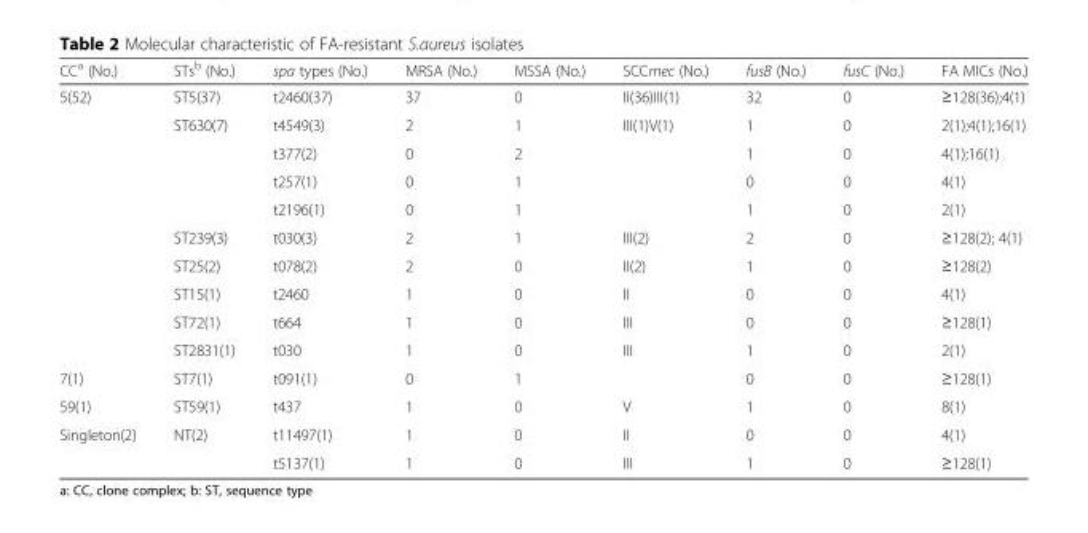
<table><thead><tr><td>CC<sup>a</sup> (No.)</td><td>STs<sup>b</sup> (No.)</td><td>spa types (No.)</td><td>MRSA (No.)</td><td>MSSA (No.)</td><td>SCCmec (No.)</td><td>fusB (No.)</td><td>fusC (No.)</td><td>FA MICs (No.)</td></tr></thead><tbody><tr><td rowspan="10">5(52)</td><td>ST5(37)</td><td>t2460(37)</td><td>37</td><td>0</td><td>II(36)III(1)</td><td>32</td><td>0</td><td>≥128(36);4(1)</td></tr><tr><td>ST630(7)</td><td>t4549(3)</td><td>2</td><td>1</td><td>III(1)V(1)</td><td>1</td><td>0</td><td>2(1);4(1);16(1)</td></tr><tr><td></td><td>t377(2)</td><td>0</td><td>2</td><td></td><td>1</td><td>0</td><td>4(1);16(1)</td></tr><tr><td></td><td>t257(1)</td><td>0</td><td>1</td><td></td><td>0</td><td>0</td><td>4(1)</td></tr><tr><td></td><td>t2196(1)</td><td>0</td><td>1</td><td></td><td>1</td><td>0</td><td>2(1)</td></tr><tr><td>ST239(3)</td><td>t030(3)</td><td>2</td><td>1</td><td>III(2)</td><td>2</td><td>0</td><td>≥128(2); 4(1)</td></tr><tr><td>ST25(2)</td><td>t078(2)</td><td>2</td><td>0</td><td>II(2)</td><td>1</td><td>0</td><td>≥128(2)</td></tr><tr><td>ST15(1)</td><td>t2460</td><td>1</td><td>0</td><td>II</td><td>0</td><td>0</td><td>4(1)</td></tr><tr><td>ST72(1)</td><td>t664</td><td>1</td><td>0</td><td>III</td><td>0</td><td>0</td><td>≥128(1)</td></tr><tr><td>ST2831(1)</td><td>t030</td><td>1</td><td>0</td><td>III</td><td>1</td><td>0</td><td>2(1)</td></tr><tr><td>7(1)</td><td>ST7(1)</td><td>t091(1)</td><td>0</td><td>1</td><td></td><td>0</td><td>0</td><td>≥128(1)</td></tr><tr><td>59(1)</td><td>ST59(1)</td><td>t437</td><td>1</td><td>0</td><td>V</td><td>1</td><td>0</td><td>8(1)</td></tr><tr><td rowspan="2">Singleton(2)</td><td>NT(2)</td><td>t11497(1)</td><td>1</td><td>0</td><td>II</td><td>0</td><td>0</td><td>4(1)</td></tr><tr><td></td><td>t5137(1)</td><td>1</td><td>0</td><td>III</td><td>1</td><td>0</td><td>≥128(1)</td></tr></tbody></table>